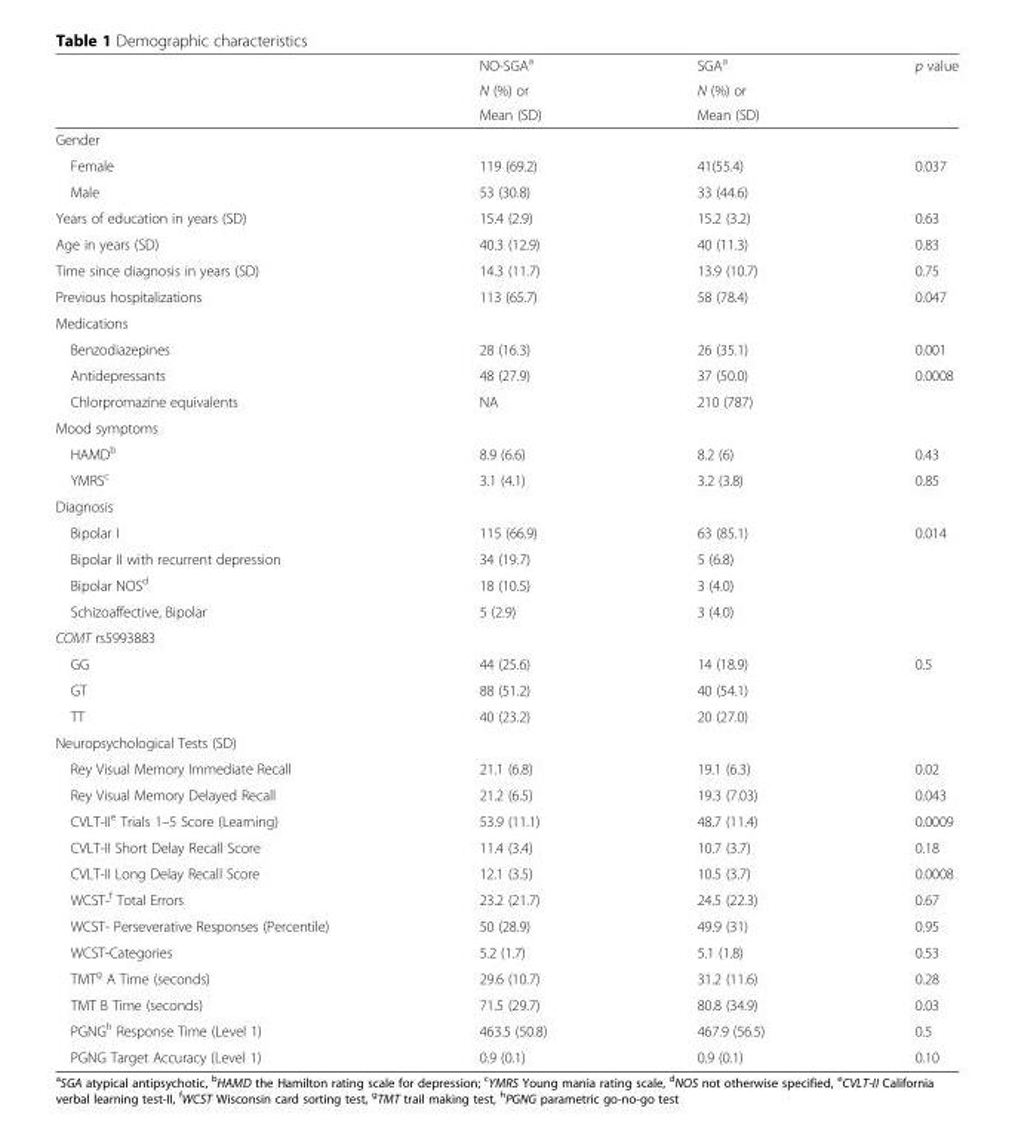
<table><thead><tr><td rowspan="3"></td><td rowspan="3">NO-SGA<sup>a</sup> N (%) or Mean (SD)</td><td rowspan="3">SGA<sup>a</sup> N (%) or Mean (SD)</td><td rowspan="3">p value</td></tr><tr></tr><tr></tr></thead><tbody><tr><td colspan="4">Gender</td></tr><tr><td>Female</td><td>119 (69.2)</td><td>41(55.4)</td><td>0.037</td></tr><tr><td>Male</td><td>53 (30.8)</td><td>33 (44.6)</td><td></td></tr><tr><td>Years of education in years (SD)</td><td>15.4 (2.9)</td><td>15.2 (3.2)</td><td>0.63</td></tr><tr><td>Age in years (SD)</td><td>40.3 (12.9)</td><td>40 (11.3)</td><td>0.83</td></tr><tr><td>Time since diagnosis in years (SD)</td><td>14.3 (11.7)</td><td>13.9 (10.7)</td><td>0.75</td></tr><tr><td>Previous hospitalizations</td><td>113 (65.7)</td><td>58 (78.4)</td><td>0.047</td></tr><tr><td colspan="4">Medications</td></tr><tr><td>Benzodiazepines</td><td>28 (16.3)</td><td>26 (35.1)</td><td>0.001</td></tr><tr><td>Antidepressants</td><td>48 (27.9)</td><td>37 (50.0)</td><td>0.0008</td></tr><tr><td>Chlorpromazine equivalents</td><td>NA</td><td>210 (787)</td><td></td></tr><tr><td colspan="4">Mood symptoms</td></tr><tr><td>HAMD<sup>b</sup></td><td>8.9 (6.6)</td><td>8.2 (6)</td><td>0.43</td></tr><tr><td>YMRS<sup>c</sup></td><td>3.1 (4.1)</td><td>3.2 (3.8)</td><td>0.85</td></tr><tr><td colspan="4">Diagnosis</td></tr><tr><td>Bipolar I</td><td>115 (66.9)</td><td>63 (85.1)</td><td>0.014</td></tr><tr><td>Bipolar II with recurrent depression</td><td>34 (19.7)</td><td>5 (6.8)</td><td></td></tr><tr><td>Bipolar NOS<sup>d</sup></td><td>18 (10.5)</td><td>3 (4.0)</td><td></td></tr><tr><td>Schizoaffective, Bipolar</td><td>5 (2.9)</td><td>3 (4.0)</td><td></td></tr><tr><td colspan="4">COMT rs5993883</td></tr><tr><td>GG</td><td>44 (25.6)</td><td>14 (18.9)</td><td>0.5</td></tr><tr><td>GT</td><td>88 (51.2)</td><td>40 (54.1)</td><td></td></tr><tr><td>TT</td><td>40 (23.2)</td><td>20 (27.0)</td><td></td></tr><tr><td colspan="4">Neuropsychological Tests (SD)</td></tr><tr><td>Rey Visual Memory Immediate Recall</td><td>21.1 (6.8)</td><td>19.1 (6.3)</td><td>0.02</td></tr><tr><td>Rey Visual Memory Delayed Recall</td><td>21.2 (6.5)</td><td>19.3 (7.03)</td><td>0.043</td></tr><tr><td>CVLT-II<sup>e</sup> Trials 1–5 Score (Learning)</td><td>53.9 (11.1)</td><td>48.7 (11.4)</td><td>0.0009</td></tr><tr><td>CVLT-II Short Delay Recall Score</td><td>11.4 (3.4)</td><td>10.7 (3.7)</td><td>0.18</td></tr><tr><td>CVLT-II Long Delay Recall Score</td><td>12.1 (3.5)</td><td>10.5 (3.7)</td><td>0.0008</td></tr><tr><td>WCST-<sup>f</sup> Total Errors</td><td>23.2 (21.7)</td><td>24.5 (22.3)</td><td>0.67</td></tr><tr><td>WCST- Perseverative Responses (Percentile)</td><td>50 (28.9)</td><td>49.9 (31)</td><td>0.95</td></tr><tr><td>WCST-Categories</td><td>5.2 (1.7)</td><td>5.1 (1.8)</td><td>0.53</td></tr><tr><td>TMT<sup>g</sup> A Time (seconds)</td><td>29.6 (10.7)</td><td>31.2 (11.6)</td><td>0.28</td></tr><tr><td>TMT B Time (seconds)</td><td>71.5 (29.7)</td><td>80.8 (34.9)</td><td>0.03</td></tr><tr><td>PGNG<sup>h</sup> Response Time (Level 1)</td><td>463.5 (50.8)</td><td>467.9 (56.5)</td><td>0.5</td></tr><tr><td>PGNG Target Accuracy (Level 1)</td><td>0.9 (0.1)</td><td>0.9 (0.1)</td><td>0.10</td></tr></tbody></table>